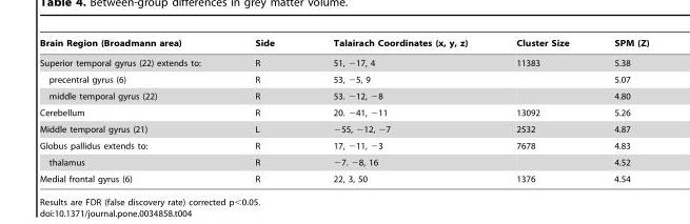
<table><thead><tr><td>Brain Region (Broadmann area)</td><td>Side</td><td>Talairach Coordinates (x, y, z)</td><td>Cluster Size</td><td>SPM (Z)</td></tr></thead><tbody><tr><td>Superior temporal gyrus (22) extends to:</td><td>R</td><td>51, −17, 4</td><td>11383</td><td>5.38</td></tr><tr><td>precentral gyrus (6)</td><td>R</td><td>53, −5, 9</td><td></td><td>5.07</td></tr><tr><td>middle temporal gyrus (22)</td><td>R</td><td>53. −12, −8</td><td></td><td>4.80</td></tr><tr><td>Cerebellum</td><td>R</td><td>20. −41, −11</td><td>13092</td><td>5.26</td></tr><tr><td>Middle temporal gyrus (21)</td><td>L</td><td>−55, −12, −7</td><td>2532</td><td>4.87</td></tr><tr><td>Globus pallidus extends to:</td><td>R</td><td>17, −11, −3</td><td>7678</td><td>4.83</td></tr><tr><td>thalamus</td><td>R</td><td>−7. −8, 16</td><td></td><td>4.52</td></tr><tr><td>Medial frontal gyrus (6)</td><td>R</td><td>22, 3, 50</td><td>1376</td><td>4.54</td></tr></tbody></table>